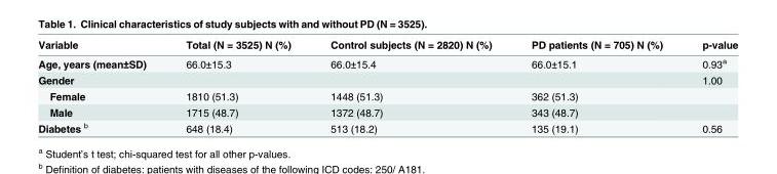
<table><thead><tr><td>Variable</td><td>Total (N = 3525) N (%)</td><td>Control subjects (N = 2820) N (%)</td><td>PD patients (N = 705) N (%)</td><td>p-value</td></tr></thead><tbody><tr><td>Age, years (mean±SD)</td><td>66.0±15.3</td><td>66.0±15.4</td><td>66.0±15.1</td><td>0.93<sup>a</sup></td></tr><tr><td>Gender</td><td></td><td></td><td></td><td>1.00</td></tr><tr><td>Female</td><td>1810 (51.3)</td><td>1448 (51.3)</td><td>362 (51.3)</td><td></td></tr><tr><td>Male</td><td>1715 (48.7)</td><td>1372 (48.7)</td><td>343 (48.7)</td><td></td></tr><tr><td>Diabetes <sup>b</sup></td><td>648 (18.4)</td><td>513 (18.2)</td><td>135 (19.1)</td><td>0.56</td></tr></tbody></table>